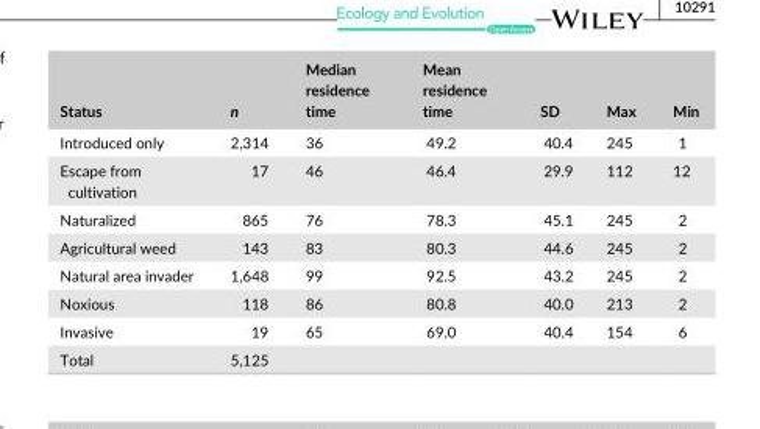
<table><thead><tr><td>Status</td><td>n</td><td>Median residence time</td><td>Mean residence time</td><td>SD</td><td>Max</td><td>Min</td></tr></thead><tbody><tr><td>Introduced only</td><td>2,314</td><td>36</td><td>49.2</td><td>40.4</td><td>245</td><td>1</td></tr><tr><td>Escape from cultivation</td><td>17</td><td>46</td><td>46.4</td><td>29.9</td><td>112</td><td>12</td></tr><tr><td>Naturalized</td><td>865</td><td>76</td><td>78.3</td><td>45.1</td><td>245</td><td>2</td></tr><tr><td>Agricultural weed</td><td>143</td><td>83</td><td>80.3</td><td>44.6</td><td>245</td><td>2</td></tr><tr><td>Natural area invader</td><td>1,648</td><td>99</td><td>92.5</td><td>43.2</td><td>245</td><td>2</td></tr><tr><td>Noxious</td><td>118</td><td>86</td><td>80.8</td><td>40.0</td><td>213</td><td>2</td></tr><tr><td>Invasive</td><td>19</td><td>65</td><td>69.0</td><td>40.4</td><td>154</td><td>6</td></tr><tr><td>Total</td><td>5,125</td><td></td><td></td><td></td><td></td><td></td></tr></tbody></table>